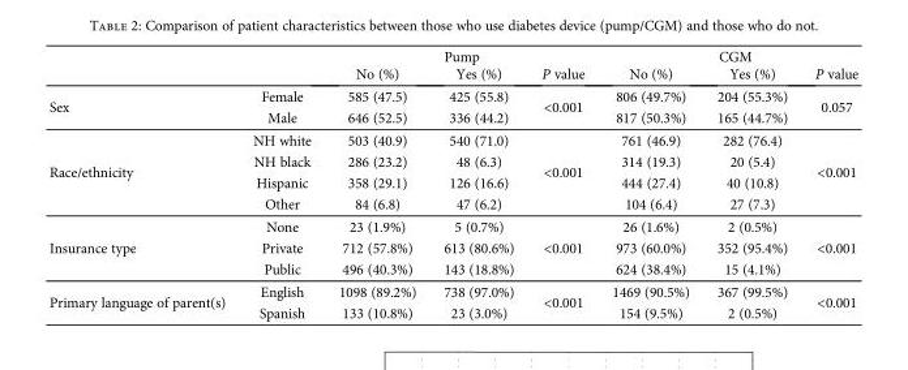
<table><thead><tr><td rowspan="2"></td><td rowspan="2"></td><td colspan="3">Pump</td><td colspan="3">CGM</td></tr><tr><td>No (%)</td><td>Yes (%)</td><td>P value</td><td>No (%)</td><td>Yes (%)</td><td>P value</td></tr></thead><tbody><tr><td rowspan="2">Sex</td><td>Female</td><td>585 (47.5)</td><td>425 (55.8)</td><td rowspan="2">&lt;0.001</td><td>806 (49.7%)</td><td>204 (55.3%)</td><td rowspan="2">0.057</td></tr><tr><td>Male</td><td>646 (52.5)</td><td>336 (44.2)</td><td>817 (50.3%)</td><td>165 (44.7%)</td></tr><tr><td rowspan="4">Race/ethnicity</td><td>NH white</td><td>503 (40.9)</td><td>540 (71.0)</td><td rowspan="4">&lt;0.001</td><td>761 (46.9)</td><td>282 (76.4)</td><td rowspan="4">&lt;0.001</td></tr><tr><td>NH black</td><td>286 (23.2)</td><td>48 (6.3)</td><td>314 (19.3)</td><td>20 (5.4)</td></tr><tr><td>Hispanic</td><td>358 (29.1)</td><td>126 (16.6)</td><td>444 (27.4)</td><td>40 (10.8)</td></tr><tr><td>Other</td><td>84 (6.8)</td><td>47 (6.2)</td><td>104 (6.4)</td><td>27 (7.3)</td></tr><tr><td rowspan="3">Insurance type</td><td>None</td><td>23 (1.9%)</td><td>5 (0.7%)</td><td rowspan="3">&lt;0.001</td><td>26 (1.6%)</td><td>2 (0.5%)</td><td rowspan="3">&lt;0.001</td></tr><tr><td>Private</td><td>712 (57.8%)</td><td>613 (80.6%)</td><td>973 (60.0%)</td><td>352 (95.4%)</td></tr><tr><td>Public</td><td>496 (40.3%)</td><td>143 (18.8%)</td><td>624 (38.4%)</td><td>15 (4.1%)</td></tr><tr><td rowspan="2">Primary language of parent(s)</td><td>English</td><td>1098 (89.2%)</td><td>738 (97.0%)</td><td rowspan="2">&lt;0.001</td><td>1469 (90.5%)</td><td>367 (99.5%)</td><td rowspan="2">&lt;0.001</td></tr><tr><td>Spanish</td><td>133 (10.8%)</td><td>23 (3.0%)</td><td>154 (9.5%)</td><td>2 (0.5%)</td></tr></tbody></table>